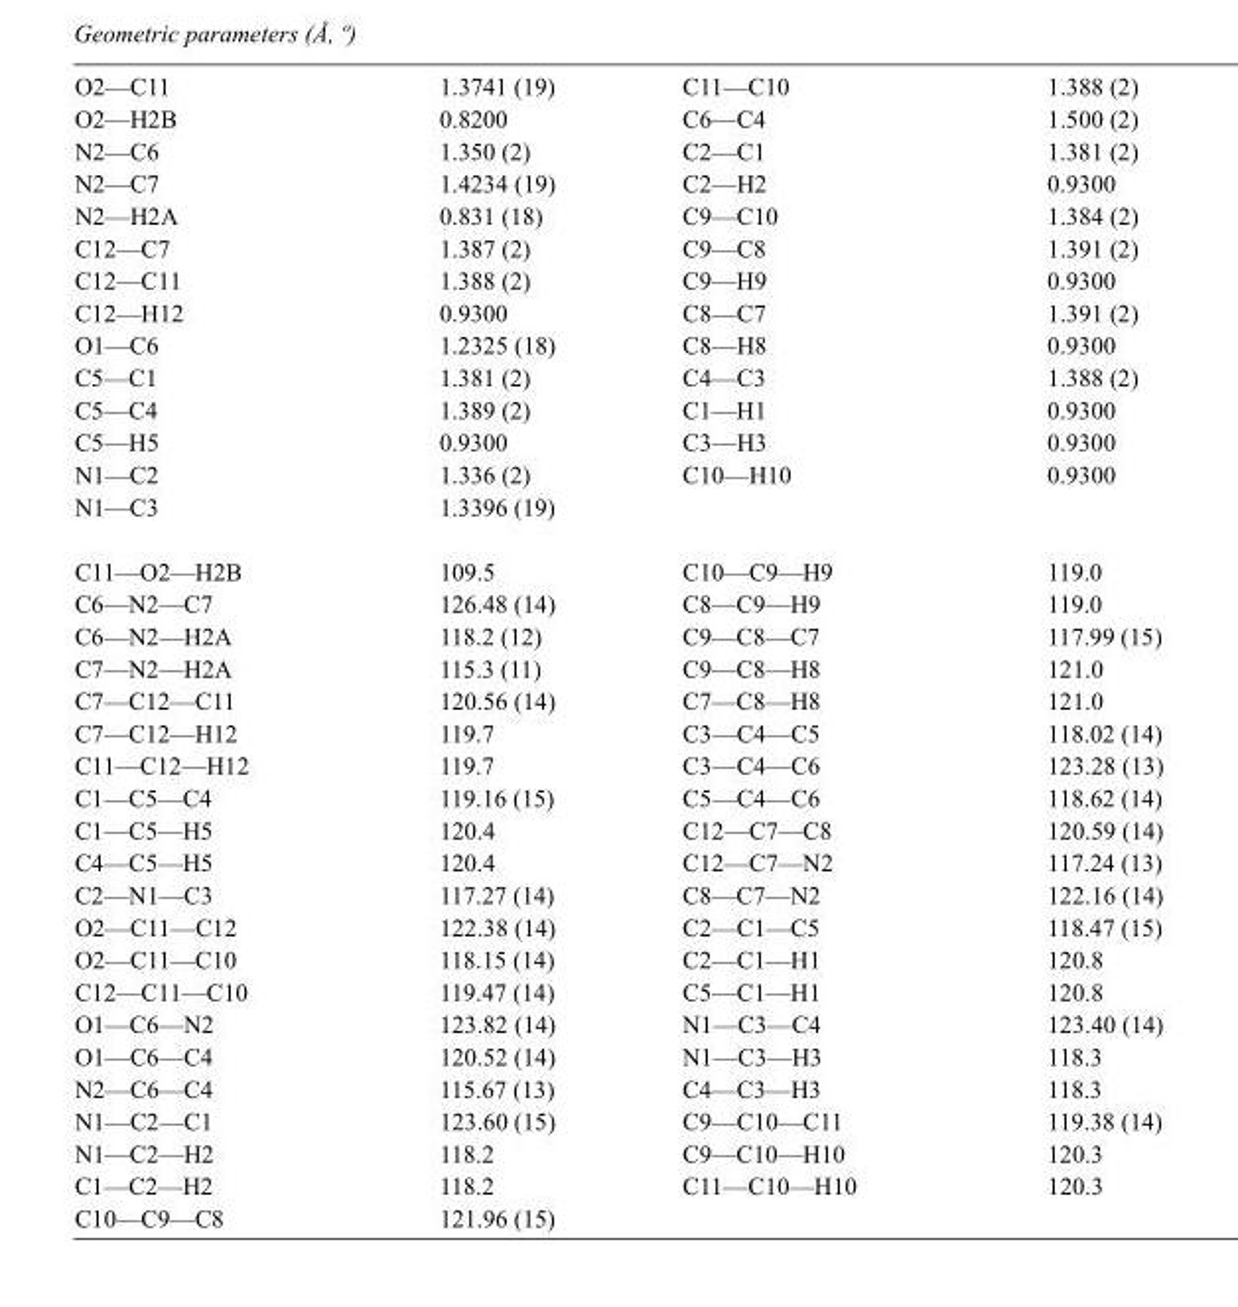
<table><tbody><tr><td>O2—C11</td><td>1.3741 (19)</td><td>C11—C10</td><td>1.388 (2)</td></tr><tr><td>O2—H2B</td><td>0.8200</td><td>C6—C4</td><td>1.500 (2)</td></tr><tr><td>N2—C6</td><td>1.350 (2)</td><td>C2—C1</td><td>1.381 (2)</td></tr><tr><td>N2—C7</td><td>1.4234 (19)</td><td>C2—H2</td><td>0.9300</td></tr><tr><td>N2—H2A</td><td>0.831 (18)</td><td>C9—C10</td><td>1.384 (2)</td></tr><tr><td>C12—C7</td><td>1.387 (2)</td><td>C9—C8</td><td>1.391 (2)</td></tr><tr><td>C12—C11</td><td>1.388 (2)</td><td>C9—H9</td><td>0.9300</td></tr><tr><td>C12—H12</td><td>0.9300</td><td>C8—C7</td><td>1.391 (2)</td></tr><tr><td>O1—C6</td><td>1.2325 (18)</td><td>C8—H8</td><td>0.9300</td></tr><tr><td>C5—C1</td><td>1.381 (2)</td><td>C4—C3</td><td>1.388 (2)</td></tr><tr><td>C5—C4</td><td>1.389 (2)</td><td>C1—H1</td><td>0.9300</td></tr><tr><td>C5—H5</td><td>0.9300</td><td>C3—H3</td><td>0.9300</td></tr><tr><td>N1—C2</td><td>1.336 (2)</td><td>C10—H10</td><td>0.9300</td></tr><tr><td>N1—C3</td><td>1.3396 (19)</td><td></td><td></td></tr><tr><td>C11—O2—H2B</td><td>109.5</td><td>C10—C9—H9</td><td>119.0</td></tr><tr><td>C6—N2—C7</td><td>126.48 (14)</td><td>C8—C9—H9</td><td>119.0</td></tr><tr><td>C6—N2—H2A</td><td>118.2 (12)</td><td>C9—C8—C7</td><td>117.99 (15)</td></tr><tr><td>C7—N2—H2A</td><td>115.3 (11)</td><td>C9—C8—H8</td><td>121.0</td></tr><tr><td>C7—C12—C11</td><td>120.56 (14)</td><td>C7—C8—H8</td><td>121.0</td></tr><tr><td>C7—C12—H12</td><td>119.7</td><td>C3—C4—C5</td><td>118.02 (14)</td></tr><tr><td>C11—C12—H12</td><td>119.7</td><td>C3—C4—C6</td><td>123.28 (13)</td></tr><tr><td>C1—C5—C4</td><td>119.16 (15)</td><td>C5—C4—C6</td><td>118.62 (14)</td></tr><tr><td>C1—C5—H5</td><td>120.4</td><td>C12—C7—C8</td><td>120.59 (14)</td></tr><tr><td>C4—C5—H5</td><td>120.4</td><td>C12—C7—N2</td><td>117.24 (13)</td></tr><tr><td>C2—N1—C3</td><td>117.27 (14)</td><td>C8—C7—N2</td><td>122.16 (14)</td></tr><tr><td>O2—C11—C12</td><td>122.38 (14)</td><td>C2—C1—C5</td><td>118.47 (15)</td></tr><tr><td>O2—C11—C10</td><td>118.15 (14)</td><td>C2—C1—H1</td><td>120.8</td></tr><tr><td>C12—C11—C10</td><td>119.47 (14)</td><td>C5—C1—H1</td><td>120.8</td></tr><tr><td>O1—C6—N2</td><td>123.82 (14)</td><td>N1—C3—C4</td><td>123.40 (14)</td></tr><tr><td>O1—C6—C4</td><td>120.52 (14)</td><td>N1—C3—H3</td><td>118.3</td></tr><tr><td>N2—C6—C4</td><td>115.67 (13)</td><td>C4—C3—H3</td><td>118.3</td></tr><tr><td>N1—C2—C1</td><td>123.60 (15)</td><td>C9—C10—C11</td><td>119.38 (14)</td></tr><tr><td>N1—C2—H2</td><td>118.2</td><td>C9—C10—H10</td><td>120.3</td></tr><tr><td>C1—C2—H2</td><td>118.2</td><td>C11—C10—H10</td><td>120.3</td></tr><tr><td>C10—C9—C8</td><td>121.96 (15)</td><td></td><td></td></tr></tbody></table>